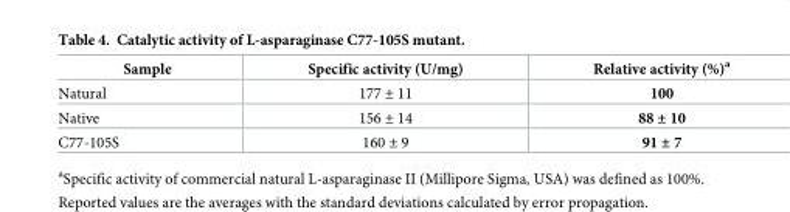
<table><thead><tr><td>Sample</td><td>Specific activity (U/mg)</td><td>Relative activity (%)<sup>a</sup></td></tr></thead><tbody><tr><td>Natural</td><td>177 ± 11</td><td>100</td></tr><tr><td>Native</td><td>156 ± 14</td><td>88 ± 10</td></tr><tr><td>C77-105S</td><td>160 ± 9</td><td>91 ± 7</td></tr></tbody></table>